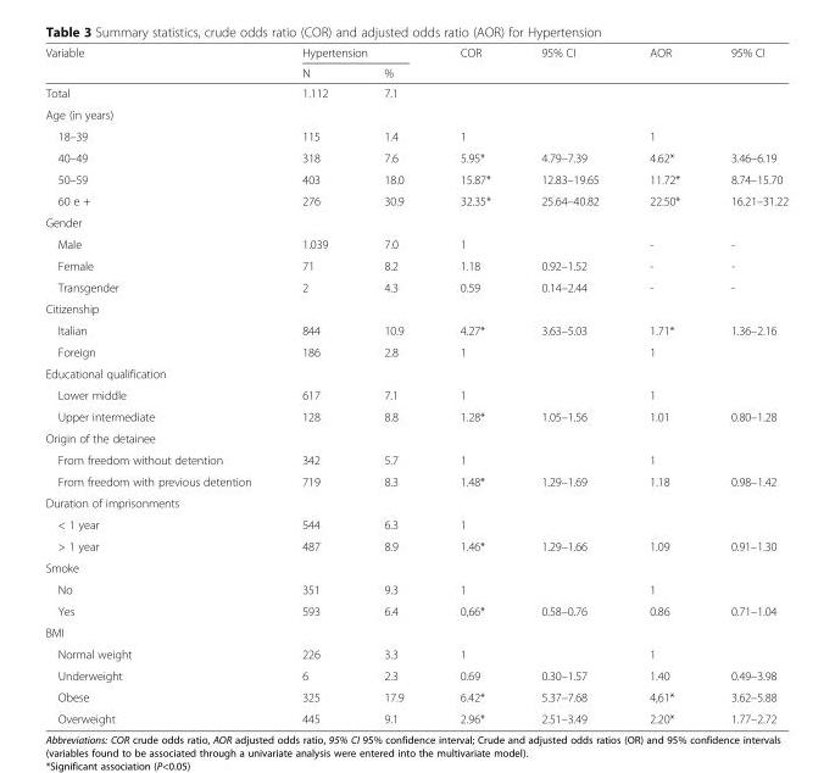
<table><thead><tr><td rowspan="2">Variable</td><td colspan="2">Hypertension</td><td rowspan="2">COR</td><td rowspan="2">95% CI</td><td rowspan="2">AOR</td><td rowspan="2">95% CI</td></tr><tr><td>N</td><td>%</td></tr></thead><tbody><tr><td>Total</td><td>1.112</td><td>7.1</td><td></td><td></td><td></td><td></td></tr><tr><td colspan="7">Age (in years)</td></tr><tr><td>18–39</td><td>115</td><td>1.4</td><td>1</td><td></td><td>1</td><td></td></tr><tr><td>40–49</td><td>318</td><td>7.6</td><td>5.95*</td><td>4.79–7.39</td><td>4.62*</td><td>3.46–6.19</td></tr><tr><td>50–59</td><td>403</td><td>18.0</td><td>15.87*</td><td>12.83–19.65</td><td>11.72*</td><td>8.74–15.70</td></tr><tr><td>60 e +</td><td>276</td><td>30.9</td><td>32.35*</td><td>25.64–40.82</td><td>22.50*</td><td>16.21–31.22</td></tr><tr><td colspan="7">Gender</td></tr><tr><td>Male</td><td>1.039</td><td>7.0</td><td>1</td><td></td><td>-</td><td>-</td></tr><tr><td>Female</td><td>71</td><td>8.2</td><td>1.18</td><td>0.92–1.52</td><td>-</td><td>-</td></tr><tr><td>Transgender</td><td>2</td><td>4.3</td><td>0.59</td><td>0.14–2.44</td><td>-</td><td>-</td></tr><tr><td colspan="7">Citizenship</td></tr><tr><td>Italian</td><td>844</td><td>10.9</td><td>4.27*</td><td>3.63–5.03</td><td>1.71*</td><td>1.36–2.16</td></tr><tr><td>Foreign</td><td>186</td><td>2.8</td><td>1</td><td></td><td>1</td><td></td></tr><tr><td colspan="7">Educational qualification</td></tr><tr><td>Lower middle</td><td>617</td><td>7.1</td><td>1</td><td></td><td>1</td><td></td></tr><tr><td>Upper intermediate</td><td>128</td><td>8.8</td><td>1.28*</td><td>1.05–1.56</td><td>1.01</td><td>0.80–1.28</td></tr><tr><td colspan="7">Origin of the detainee</td></tr><tr><td>From freedom without detention</td><td>342</td><td>5.7</td><td>1</td><td></td><td>1</td><td></td></tr><tr><td>From freedom with previous detention</td><td>719</td><td>8.3</td><td>1.48*</td><td>1.29–1.69</td><td>1.18</td><td>0.98–1.42</td></tr><tr><td colspan="7">Duration of imprisonments</td></tr><tr><td>&lt; 1 year</td><td>544</td><td>6.3</td><td>1</td><td></td><td></td><td></td></tr><tr><td>&gt; 1 year</td><td>487</td><td>8.9</td><td>1.46*</td><td>1.29–1.66</td><td>1.09</td><td>0.91–1.30</td></tr><tr><td colspan="7">Smoke</td></tr><tr><td>No</td><td>351</td><td>9.3</td><td>1</td><td></td><td>1</td><td></td></tr><tr><td>Yes</td><td>593</td><td>6.4</td><td>0,66*</td><td>0.58–0.76</td><td>0.86</td><td>0.71–1.04</td></tr><tr><td colspan="7">BMI</td></tr><tr><td>Normal weight</td><td>226</td><td>3.3</td><td>1</td><td></td><td>1</td><td></td></tr><tr><td>Underweight</td><td>6</td><td>2.3</td><td>0.69</td><td>0.30–1.57</td><td>1.40</td><td>0.49–3.98</td></tr><tr><td>Obese</td><td>325</td><td>17.9</td><td>6.42*</td><td>5.37–7.68</td><td>4,61*</td><td>3.62–5.88</td></tr><tr><td>Overweight</td><td>445</td><td>9.1</td><td>2.96*</td><td>2.51–3.49</td><td>2.20*</td><td>1.77–2.72</td></tr></tbody></table>